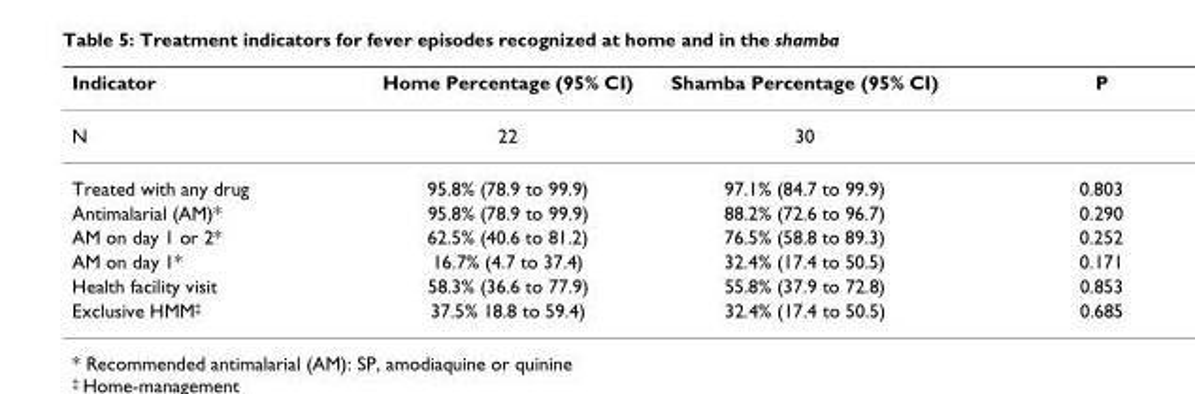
<table><thead><tr><td>Indicator</td><td>Home Percentage (95% CI)</td><td>Shamba Percentage (95% CI)</td><td>P</td></tr></thead><tbody><tr><td>N</td><td>22</td><td>30</td><td></td></tr><tr><td>Treated with any drug</td><td>95.8% (78.9 to 99.9)</td><td>97.1% (84.7 to 99.9)</td><td>0.803</td></tr><tr><td>Antimalarial (AM)*</td><td>95.8% (78.9 to 99.9)</td><td>88.2% (72.6 to 96.7)</td><td>0.290</td></tr><tr><td>AM on day 1 or 2*</td><td>62.5% (40.6 to 81.2)</td><td>76.5% (58.8 to 89.3)</td><td>0.252</td></tr><tr><td>AM on day 1*</td><td>16.7% (4.7 to 37.4)</td><td>32.4% (17.4 to 50.5)</td><td>0.171</td></tr><tr><td>Health facility visit</td><td>58.3% (36.6 to 77.9)</td><td>55.8% (37.9 to 72.8)</td><td>0.853</td></tr><tr><td>Exclusive HMM<sup>‡</sup></td><td>37.5% 18.8 to 59.4)</td><td>32.4% (17.4 to 50.5)</td><td>0.685</td></tr></tbody></table>